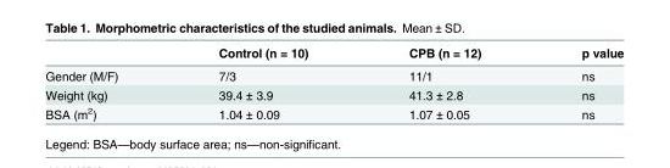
<table><thead><tr><td></td><td>Control (n = 10)</td><td>CPB (n = 12)</td><td>p value</td></tr></thead><tbody><tr><td>Gender (M/F)</td><td>7/3</td><td>11/1</td><td>ns</td></tr><tr><td>Weight (kg)</td><td>39.4 ± 3.9</td><td>41.3 ± 2.8</td><td>ns</td></tr><tr><td>BSA (m<sup>2</sup>)</td><td>1.04 ± 0.09</td><td>1.07 ± 0.05</td><td>ns</td></tr></tbody></table>